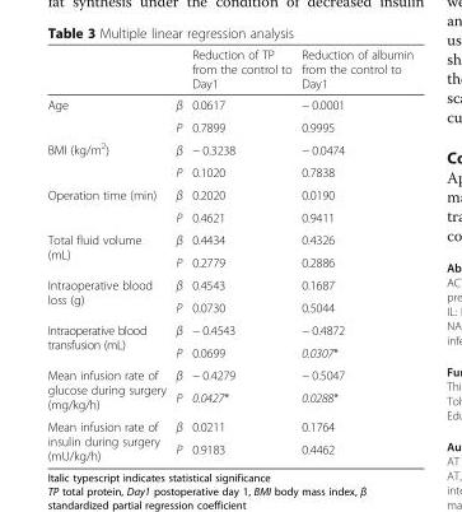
<table><thead><tr><td></td><td></td><td>Reduction of TP from the control to Day1</td><td>Reduction of albumin from the control to Day1</td></tr></thead><tbody><tr><td rowspan="2">Age</td><td>β</td><td>0.0617</td><td>− 0.0001</td></tr><tr><td>P</td><td>0.7899</td><td>0.9995</td></tr><tr><td rowspan="2">BMI (kg/m<sup>2</sup>)</td><td>β</td><td>− 0.3238</td><td>− 0.0474</td></tr><tr><td>P</td><td>0.1020</td><td>0.7838</td></tr><tr><td rowspan="2">Operation time (min)</td><td>β</td><td>0.2020</td><td>0.0190</td></tr><tr><td>P</td><td>0.4621</td><td>0.9411</td></tr><tr><td rowspan="2">Total fluid volume (mL)</td><td>β</td><td>0.4434</td><td>0.4326</td></tr><tr><td>P</td><td>0.2779</td><td>0.2886</td></tr><tr><td rowspan="2">Intraoperative blood loss (g)</td><td>β</td><td>0.4543</td><td>0.1687</td></tr><tr><td>P</td><td>0.0730</td><td>0.5044</td></tr><tr><td rowspan="2">Intraoperative blood transfusion (mL)</td><td>β</td><td>− 0.4543</td><td>− 0.4872</td></tr><tr><td>P</td><td>0.0699</td><td>0.0307*</td></tr><tr><td rowspan="2">Mean infusion rate of glucose during surgery (mg/kg/h)</td><td>β</td><td>− 0.4279</td><td>− 0.5047</td></tr><tr><td>P</td><td>0.0427*</td><td>0.0288*</td></tr><tr><td rowspan="2">Mean infusion rate of insulin during surgery (mU/kg/h)</td><td>β</td><td>0.0211</td><td>0.1764</td></tr><tr><td>P</td><td>0.9183</td><td>0.4462</td></tr></tbody></table>